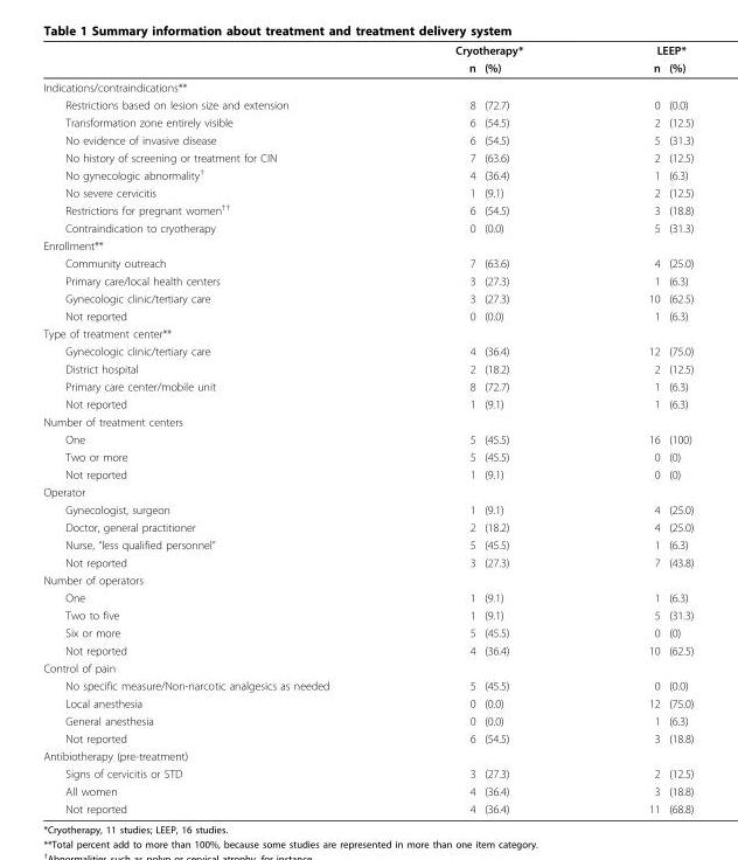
<table><thead><tr><td rowspan="2"></td><td colspan="2">Cryotherapy*</td><td colspan="2">LEEP*</td></tr><tr><td>n</td><td>(%)</td><td>n</td><td>(%)</td></tr></thead><tbody><tr><td colspan="5">Indications/contraindications**</td></tr><tr><td>Restrictions based on lesion size and extension</td><td>8</td><td>(72.7)</td><td>0</td><td>(0.0)</td></tr><tr><td>Transformation zone entirely visible</td><td>6</td><td>(54.5)</td><td>2</td><td>(12.5)</td></tr><tr><td>No evidence of invasive disease</td><td>6</td><td>(54.5)</td><td>5</td><td>(31.3)</td></tr><tr><td>No history of screening or treatment for CIN</td><td>7</td><td>(63.6)</td><td>2</td><td>(12.5)</td></tr><tr><td>No gynecologic abnormality<sup>†</sup></td><td>4</td><td>(36.4)</td><td>1</td><td>(6.3)</td></tr><tr><td>No severe cervicitis</td><td>1</td><td>(9.1)</td><td>2</td><td>(12.5)</td></tr><tr><td>Restrictions for pregnant women<sup>††</sup></td><td>6</td><td>(54.5)</td><td>3</td><td>(18.8)</td></tr><tr><td>Contraindication to cryotherapy</td><td>0</td><td>(0.0)</td><td>5</td><td>(31.3)</td></tr><tr><td colspan="5">Enrollment**</td></tr><tr><td>Community outreach</td><td>7</td><td>(63.6)</td><td>4</td><td>(25.0)</td></tr><tr><td>Primary care/local health centers</td><td>3</td><td>(27.3)</td><td>1</td><td>(6.3)</td></tr><tr><td>Gynecologic clinic/tertiary care</td><td>3</td><td>(27.3)</td><td>10</td><td>(62.5)</td></tr><tr><td>Not reported</td><td>0</td><td>(0.0)</td><td>1</td><td>(6.3)</td></tr><tr><td colspan="5">Type of treatment center**</td></tr><tr><td>Gynecologic clinic/tertiary care</td><td>4</td><td>(36.4)</td><td>12</td><td>(75.0)</td></tr><tr><td>District hospital</td><td>2</td><td>(18.2)</td><td>2</td><td>(12.5)</td></tr><tr><td>Primary care center/mobile unit</td><td>8</td><td>(72.7)</td><td>1</td><td>(6.3)</td></tr><tr><td>Not reported</td><td>1</td><td>(9.1)</td><td>1</td><td>(6.3)</td></tr><tr><td colspan="5">Number of treatment centers</td></tr><tr><td>One</td><td>5</td><td>(45.5)</td><td>16</td><td>(100)</td></tr><tr><td>Two or more</td><td>5</td><td>(45.5)</td><td>0</td><td>(0)</td></tr><tr><td>Not reported</td><td>1</td><td>(9.1)</td><td>0</td><td>(0)</td></tr><tr><td colspan="5">Operator</td></tr><tr><td>Gynecologist, surgeon</td><td>1</td><td>(9.1)</td><td>4</td><td>(25.0)</td></tr><tr><td>Doctor, general practitioner</td><td>2</td><td>(18.2)</td><td>4</td><td>(25.0)</td></tr><tr><td>Nurse, “less qualified personnel”</td><td>5</td><td>(45.5)</td><td>1</td><td>(6.3)</td></tr><tr><td>Not reported</td><td>3</td><td>(27.3)</td><td>7</td><td>(43.8)</td></tr><tr><td colspan="5">Number of operators</td></tr><tr><td>One</td><td>1</td><td>(9.1)</td><td>1</td><td>(6.3)</td></tr><tr><td>Two to five</td><td>1</td><td>(9.1)</td><td>5</td><td>(31.3)</td></tr><tr><td>Six or more</td><td>5</td><td>(45.5)</td><td>0</td><td>(0)</td></tr><tr><td>Not reported</td><td>4</td><td>(36.4)</td><td>10</td><td>(62.5)</td></tr><tr><td colspan="5">Control of pain</td></tr><tr><td>No specific measure/Non-narcotic analgesics as needed</td><td>5</td><td>(45.5)</td><td>0</td><td>(0.0)</td></tr><tr><td>Local anesthesia</td><td>0</td><td>(0.0)</td><td>12</td><td>(75.0)</td></tr><tr><td>General anesthesia</td><td>0</td><td>(0.0)</td><td>1</td><td>(6.3)</td></tr><tr><td>Not reported</td><td>6</td><td>(54.5)</td><td>3</td><td>(18.8)</td></tr><tr><td colspan="5">Antibiotherapy (pre-treatment)</td></tr><tr><td>Signs of cervicitis or STD</td><td>3</td><td>(27.3)</td><td>2</td><td>(12.5)</td></tr><tr><td>All women</td><td>4</td><td>(36.4)</td><td>3</td><td>(18.8)</td></tr><tr><td>Not reported</td><td>4</td><td>(36.4)</td><td>11</td><td>(68.8)</td></tr></tbody></table>